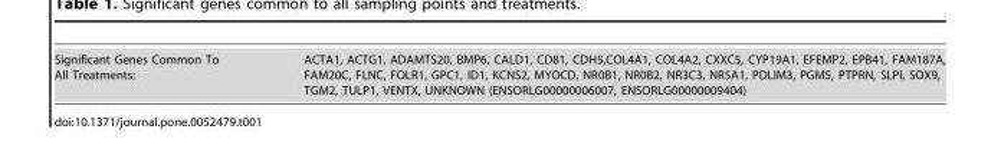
<table><tbody><tr><td>Significant Genes Common To All Treatments:</td><td>ACTA1, ACTG1, ADAMTS20, BMP6, CALD1, CD81, CDH5,COL4A1, COL4A2, CXXC5, CYP19A1, EFEMP2, EPB41, FAM187A, FAM20C, FLNC, FOLR1, GPC1, ID1, KCNS2, MYOCD, NR0B1, NR0B2, NR3C3, NR5A1, PDLIM3, PGM5, PTPRN, SLPI, SOX9, TGM2, TULP1, VENTX, UNKNOWN (ENSORLG00000006007, ENSORLG00000009404)</td></tr></tbody></table>